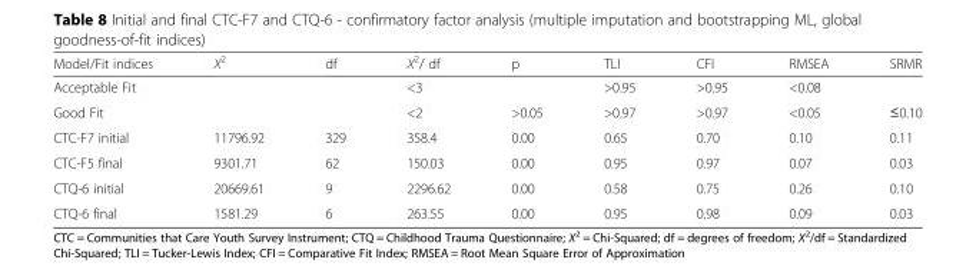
<table><thead><tr><td>Model/Fit indices</td><td>Χ<sup>2</sup></td><td>df</td><td>Χ<sup>2</sup>/ df</td><td>p</td><td>TLI</td><td>CFI</td><td>RMSEA</td><td>SRMR</td></tr></thead><tbody><tr><td>Acceptable Fit</td><td></td><td></td><td>&lt;3</td><td></td><td>&gt;0.95</td><td>&gt;0.95</td><td>&lt;0.08</td><td></td></tr><tr><td>Good Fit</td><td></td><td></td><td>&lt;2</td><td>&gt;0.05</td><td>&gt;0.97</td><td>&gt;0.97</td><td>&lt;0.05</td><td>≤0.10</td></tr><tr><td>CTC-F7 initial</td><td>11796.92</td><td>329</td><td>358.4</td><td>0.00</td><td>0.65</td><td>0.70</td><td>0.10</td><td>0.11</td></tr><tr><td>CTC-F5 final</td><td>9301.71</td><td>62</td><td>150.03</td><td>0.00</td><td>0.95</td><td>0.97</td><td>0.07</td><td>0.03</td></tr><tr><td>CTQ-6 initial</td><td>20669.61</td><td>9</td><td>2296.62</td><td>0.00</td><td>0.58</td><td>0.75</td><td>0.26</td><td>0.10</td></tr><tr><td>CTQ-6 final</td><td>1581.29</td><td>6</td><td>263.55</td><td>0.00</td><td>0.95</td><td>0.98</td><td>0.09</td><td>0.03</td></tr></tbody></table>